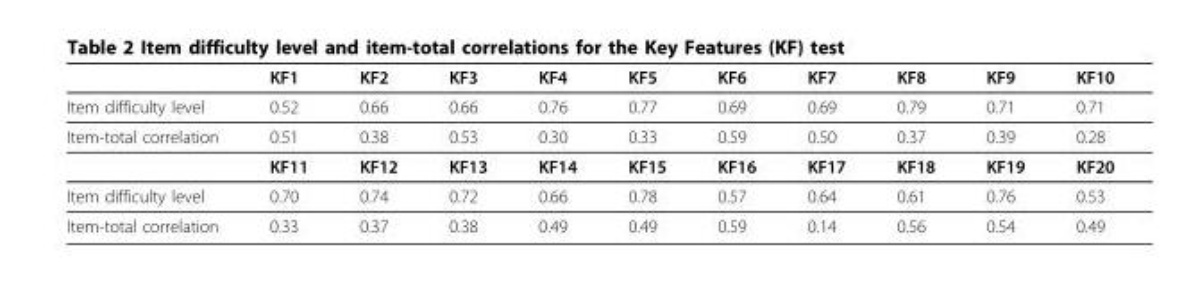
<table><thead><tr><td></td><td>KF1</td><td>KF2</td><td>KF3</td><td>KF4</td><td>KF5</td><td>KF6</td><td>KF7</td><td>KF8</td><td>KF9</td><td>KF10</td></tr></thead><tbody><tr><td>Item difficulty level</td><td>0.52</td><td>0.66</td><td>0.66</td><td>0.76</td><td>0.77</td><td>0.69</td><td>0.69</td><td>0.79</td><td>0.71</td><td>0.71</td></tr><tr><td rowspan="2">Item-total correlation</td><td>0.51</td><td>0.38</td><td>0.53</td><td>0.30</td><td>0.33</td><td>0.59</td><td>0.50</td><td>0.37</td><td>0.39</td><td>0.28</td></tr><tr><td>KF11</td><td>KF12</td><td>KF13</td><td>KF14</td><td>KF15</td><td>KF16</td><td>KF17</td><td>KF18</td><td>KF19</td><td>KF20</td></tr><tr><td>Item difficulty level</td><td>0.70</td><td>0.74</td><td>0.72</td><td>0.66</td><td>0.78</td><td>0.57</td><td>0.64</td><td>0.61</td><td>0.76</td><td>0.53</td></tr><tr><td>Item-total correlation</td><td>0.33</td><td>0.37</td><td>0.38</td><td>0.49</td><td>0.49</td><td>0.59</td><td>0.14</td><td>0.56</td><td>0.54</td><td>0.49</td></tr></tbody></table>